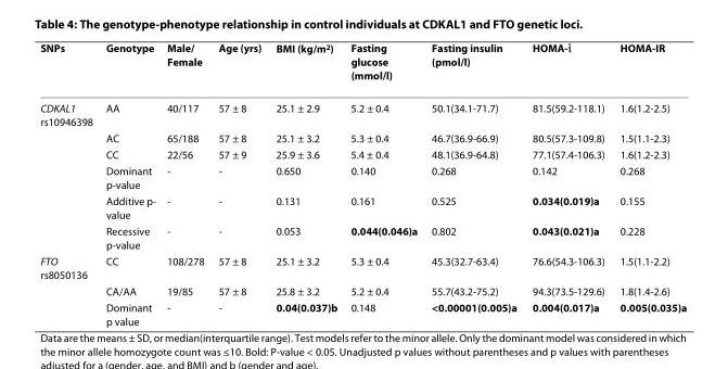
<table><thead><tr><td>SNPs</td><td>Genotype</td><td>Male/ Female</td><td>Age (yrs)</td><td>BMI (kg/m<sup>2</sup>)</td><td>Fasting glucose (mmol/l)</td><td>Fasting insulin (pmol/l)</td><td>HOMA-ί</td><td>HOMA-IR</td></tr></thead><tbody><tr><td rowspan="6">CDKAL1 rs10946398</td><td>AA</td><td>40/117</td><td>57 ± 8</td><td>25.1 ± 2.9</td><td>5.2 ± 0.4</td><td>50.1(34.1-71.7)</td><td>81.5(59.2-118.1)</td><td>1.6(1.2-2.5)</td></tr><tr><td>AC</td><td>65/188</td><td>57 ± 8</td><td>25.1 ± 3.2</td><td>5.3 ± 0.4</td><td>46.7(36.9-66.9)</td><td>80.5(57.3-109.8)</td><td>1.5(1.1-2.3)</td></tr><tr><td>CC</td><td>22/56</td><td>57 ± 9</td><td>25.9 ± 3.6</td><td>5.4 ± 0.4</td><td>48.1(36.9-64.8)</td><td>77.1(57.4-106.3)</td><td>1.6(1.2-2.3)</td></tr><tr><td>Dominant p-value</td><td>-</td><td>-</td><td>0.650</td><td>0.140</td><td>0.268</td><td>0.142</td><td>0.268</td></tr><tr><td>Additive p- value</td><td>-</td><td>-</td><td>0.131</td><td>0.161</td><td>0.525</td><td>0.034(0.019)a</td><td>0.155</td></tr><tr><td>Recessive p-value</td><td>-</td><td>-</td><td>0.053</td><td>0.044(0.046)a</td><td>0.802</td><td>0.043(0.021)a</td><td>0.228</td></tr><tr><td rowspan="3">FTO rs8050136</td><td>CC</td><td>108/278</td><td>57 ± 8</td><td>25.1 ± 3.2</td><td>5.3 ± 0.4</td><td>45.3(32.7-63.4)</td><td>76.6(54.3-106.3)</td><td>1.5(1.1-2.2)</td></tr><tr><td>CA/AA</td><td>19/85</td><td>57 ± 8</td><td>25.8 ± 3.2</td><td>5.2 ± 0.4</td><td>55.7(43.2-75.2)</td><td>94.3(73.5-129.6)</td><td>1.8(1.4-2.6)</td></tr><tr><td>Dominant p value</td><td>-</td><td>-</td><td>0.04(0.037)b</td><td>0.148</td><td>&lt;0.00001(0.005)a</td><td>0.004(0.017)a</td><td>0.005(0.035)a</td></tr></tbody></table>